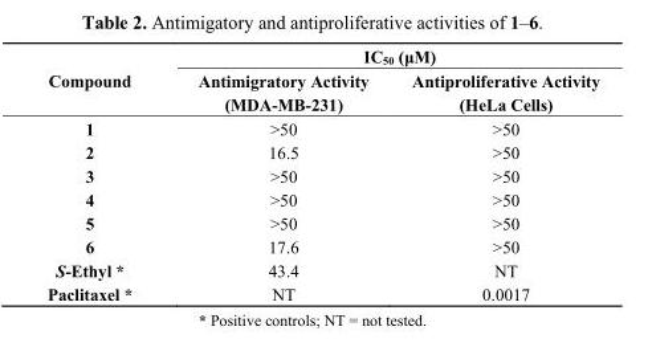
<table><thead><tr><td rowspan="2">Compound</td><td colspan="2">IC<sub>50</sub> (μM)</td></tr><tr><td>Antimigratory Activity (MDA-MB-231)</td><td>Antiproliferative Activity (HeLa Cells)</td></tr></thead><tbody><tr><td>1</td><td>&gt;50</td><td>&gt;50</td></tr><tr><td>2</td><td>16.5</td><td>&gt;50</td></tr><tr><td>3</td><td>&gt;50</td><td>&gt;50</td></tr><tr><td>4</td><td>&gt;50</td><td>&gt;50</td></tr><tr><td>5</td><td>&gt;50</td><td>&gt;50</td></tr><tr><td>6</td><td>17.6</td><td>&gt;50</td></tr><tr><td>S-Ethyl *</td><td>43.4</td><td>NT</td></tr><tr><td>Paclitaxel *</td><td>NT</td><td>0.0017</td></tr></tbody></table>